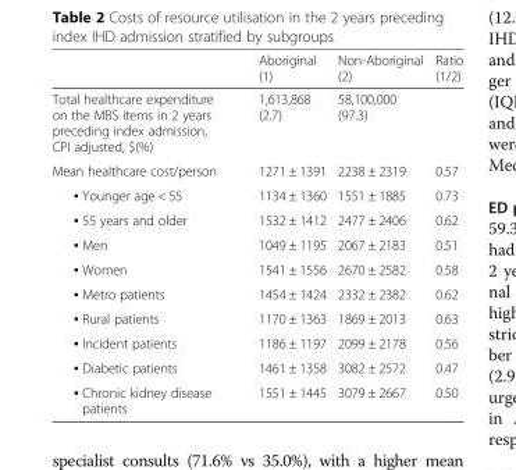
<table><thead><tr><td></td><td>Aboriginal (1)</td><td>Non-Aboriginal (2)</td><td>Ratio (1/2)</td></tr></thead><tbody><tr><td>Total healthcare expenditure on the MBS items in 2 years preceding index admission, CPI adjusted, $(%)</td><td>1,613,868 (2.7)</td><td>58,100,000 (97.3)</td><td></td></tr><tr><td>Mean healthcare cost/person</td><td>1271 ± 1391</td><td>2238 ± 2319</td><td>0.57</td></tr><tr><td>▪ Younger age &lt; 55</td><td>1134 ± 1360</td><td>1551 ± 1885</td><td>0.73</td></tr><tr><td>▪ 55 years and older</td><td>1532 ± 1412</td><td>2477 ± 2406</td><td>0.62</td></tr><tr><td>▪ Men</td><td>1049 ± 1195</td><td>2067 ± 2183</td><td>0.51</td></tr><tr><td>▪ Women</td><td>1541 ± 1556</td><td>2670 ± 2582</td><td>0.58</td></tr><tr><td>▪ Metro patients</td><td>1454 ± 1424</td><td>2332 ± 2382</td><td>0.62</td></tr><tr><td>▪ Rural patients</td><td>1170 ± 1363</td><td>1869 ± 2013</td><td>0.63</td></tr><tr><td>▪ Incident patients</td><td>1186 ± 1197</td><td>2099 ± 2178</td><td>0.56</td></tr><tr><td>▪ Diabetic patients</td><td>1461 ± 1358</td><td>3082 ± 2572</td><td>0.47</td></tr><tr><td>▪ Chronic kidney disease patients</td><td>1551 ± 1445</td><td>3079 ± 2667</td><td>0.50</td></tr></tbody></table>